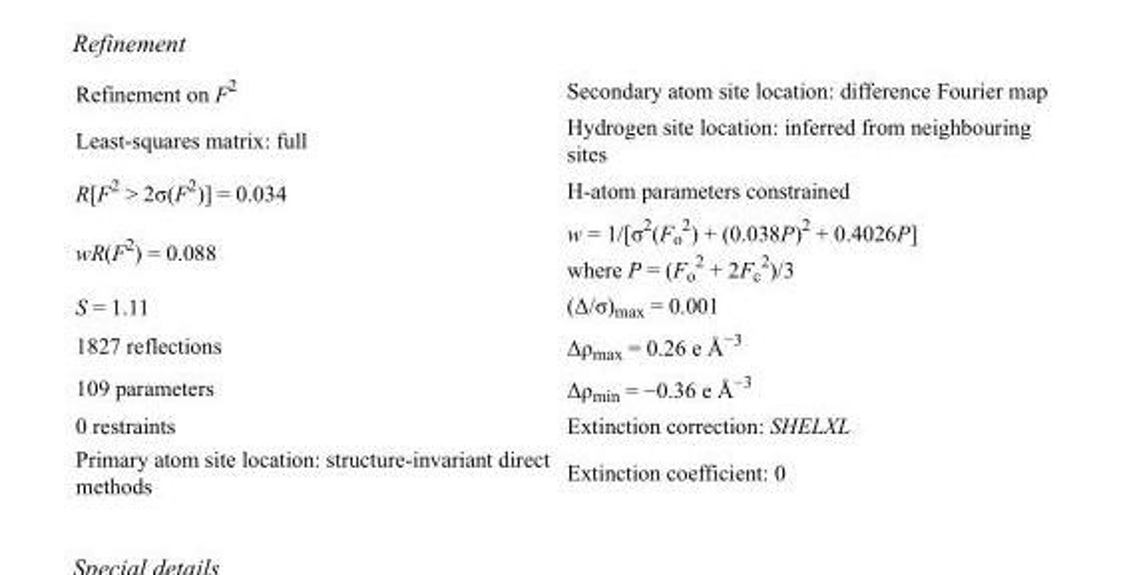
<table><tbody><tr><td>Refinement on F<sup>2</sup></td><td>Secondary atom site location: difference Fourier map</td></tr><tr><td>Least-squares matrix: full</td><td>Hydrogen site location: inferred from neighbouring sites</td></tr><tr><td>R[F<sup>2</sup> &gt; 2σ(F<sup>2</sup>)] = 0.034</td><td>H-atom parameters constrained</td></tr><tr><td>wR(F<sup>2</sup>) = 0.088</td><td>w = 1/[σ<sup>2</sup>(F<sub>o</sub> <sup>2</sup>) + (0.038P)<sup>2</sup> + 0.4026P] where P = (F<sub>o</sub> <sup>2</sup> + 2F<sub>c</sub> <sup>2</sup>)/3</td></tr><tr><td>S = 1.11</td><td>(Δ/σ)<sub>max</sub> = 0.001</td></tr><tr><td>1827 reflections</td><td>Δρ<sub>max</sub> = 0.26 e Å<sup>−3</sup></td></tr><tr><td>109 parameters</td><td>Δρ<sub>min</sub> = −0.36 e Å<sup>−3</sup></td></tr><tr><td>0 restraints</td><td>Extinction correction: SHELXL</td></tr><tr><td>Primary atom site location: structure-invariant direct methods</td><td>Extinction coefficient: 0</td></tr></tbody></table>